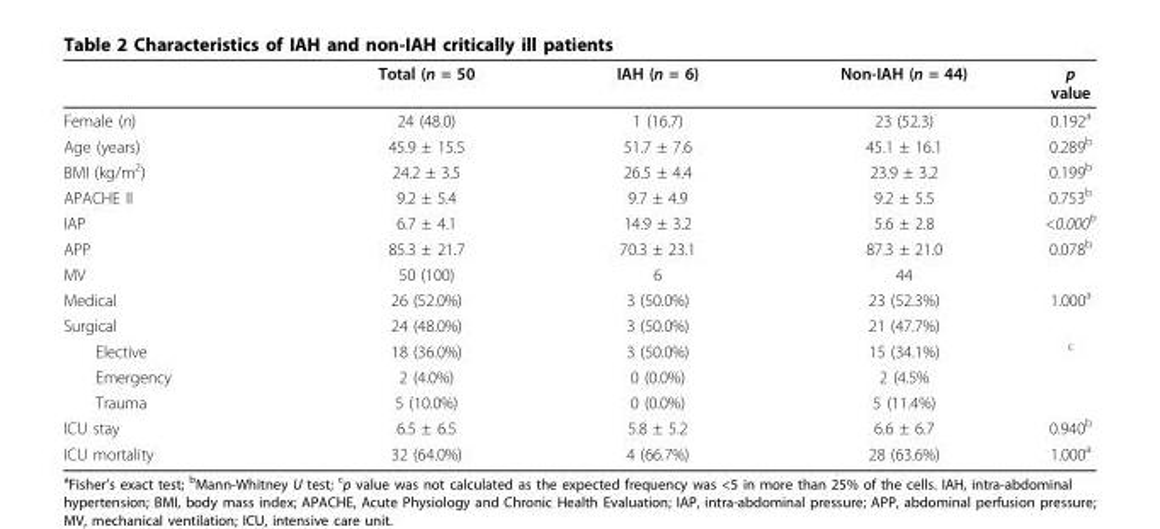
<table><thead><tr><td></td><td>Total (n = 50</td><td>IAH (n = 6)</td><td>Non-IAH (n = 44)</td><td>p value</td></tr></thead><tbody><tr><td>Female (n)</td><td>24 (48.0)</td><td>1 (16.7)</td><td>23 (52.3)</td><td>0.192<sup>a</sup></td></tr><tr><td>Age (years)</td><td>45.9 ± 15.5</td><td>51.7 ± 7.6</td><td>45.1 ± 16.1</td><td>0.289<sup>b</sup></td></tr><tr><td>BMI (kg/m<sup>2</sup>)</td><td>24.2 ± 3.5</td><td>26.5 ± 4.4</td><td>23.9 ± 3.2</td><td>0.199<sup>b</sup></td></tr><tr><td>APACHE II</td><td>9.2 ± 5.4</td><td>9.7 ± 4.9</td><td>9.2 ± 5.5</td><td>0.753<sup>b</sup></td></tr><tr><td>IAP</td><td>6.7 ± 4.1</td><td>14.9 ± 3.2</td><td>5.6 ± 2.8</td><td>&lt;0.000<sup>b</sup></td></tr><tr><td>APP</td><td>85.3 ± 21.7</td><td>70.3 ± 23.1</td><td>87.3 ± 21.0</td><td>0.078<sup>b</sup></td></tr><tr><td>MV</td><td>50 (100)</td><td>6</td><td>44</td><td></td></tr><tr><td>Medical</td><td>26 (52.0%)</td><td>3 (50.0%)</td><td>23 (52.3%)</td><td>1.000<sup>a</sup></td></tr><tr><td>Surgical</td><td>24 (48.0%)</td><td>3 (50.0%)</td><td>21 (47.7%)</td><td></td></tr><tr><td>Elective</td><td>18 (36.0%)</td><td>3 (50.0%)</td><td>15 (34.1%)</td><td><sup>c</sup></td></tr><tr><td>Emergency</td><td>2 (4.0%)</td><td>0 (0.0%)</td><td>2 (4.5%</td><td></td></tr><tr><td>Trauma</td><td>5 (10.0%)</td><td>0 (0.0%)</td><td>5 (11.4%)</td><td></td></tr><tr><td>ICU stay</td><td>6.5 ± 6.5</td><td>5.8 ± 5.2</td><td>6.6 ± 6.7</td><td>0.940<sup>b</sup></td></tr><tr><td>ICU mortality</td><td>32 (64.0%)</td><td>4 (66.7%)</td><td>28 (63.6%)</td><td>1.000<sup>a</sup></td></tr></tbody></table>